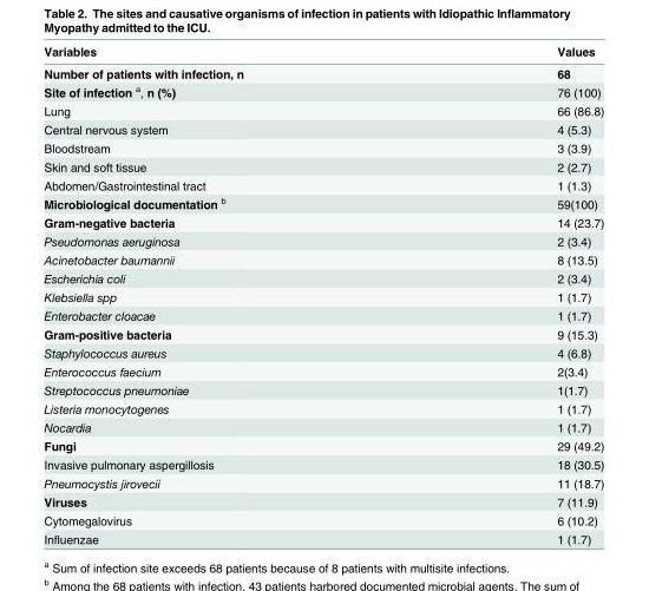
<table><thead><tr><td>Variables</td><td>Values</td></tr></thead><tbody><tr><td>Number of patients with infection, n</td><td>68</td></tr><tr><td>Site of infection <sup>a</sup>, n (%)</td><td>76 (100)</td></tr><tr><td>Lung</td><td>66 (86.8)</td></tr><tr><td>Central nervous system</td><td>4 (5.3)</td></tr><tr><td>Bloodstream</td><td>3 (3.9)</td></tr><tr><td>Skin and soft tissue</td><td>2 (2.7)</td></tr><tr><td>Abdomen/Gastrointestinal tract</td><td>1 (1.3)</td></tr><tr><td>Microbiological documentation <sup>b</sup></td><td>59(100)</td></tr><tr><td>Gram-negative bacteria</td><td>14 (23.7)</td></tr><tr><td>Pseudomonas aeruginosa</td><td>2 (3.4)</td></tr><tr><td>Acinetobacter baumannii</td><td>8 (13.5)</td></tr><tr><td>Escherichia coli</td><td>2 (3.4)</td></tr><tr><td>Klebsiella spp</td><td>1 (1.7)</td></tr><tr><td>Enterobacter cloacae</td><td>1 (1.7)</td></tr><tr><td>Gram-positive bacteria</td><td>9 (15.3)</td></tr><tr><td>Staphylococcus aureus</td><td>4 (6.8)</td></tr><tr><td>Enterococcus faecium</td><td>2(3.4)</td></tr><tr><td>Streptococcus pneumoniae</td><td>1(1.7)</td></tr><tr><td>Listeria monocytogenes</td><td>1 (1.7)</td></tr><tr><td>Nocardia</td><td>1 (1.7)</td></tr><tr><td>Fungi</td><td>29 (49.2)</td></tr><tr><td>Invasive pulmonary aspergillosis</td><td>18 (30.5)</td></tr><tr><td>Pneumocystis jirovecii</td><td>11 (18.7)</td></tr><tr><td>Viruses</td><td>7 (11.9)</td></tr><tr><td>Cytomegalovirus</td><td>6 (10.2)</td></tr><tr><td>Influenzae</td><td>1 (1.7)</td></tr></tbody></table>